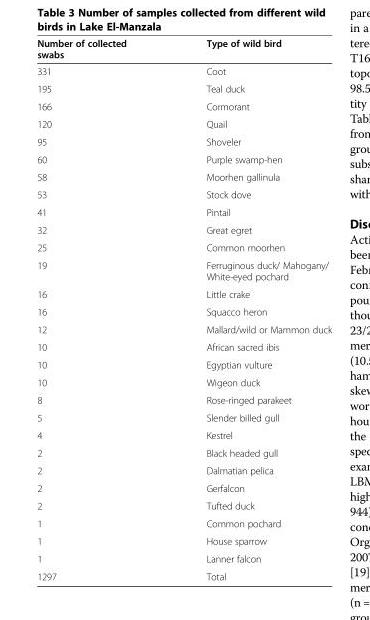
<table><thead><tr><td>Number of collected swabs</td><td>Type of wild bird</td></tr></thead><tbody><tr><td>331</td><td>Coot</td></tr><tr><td>195</td><td>Teal duck</td></tr><tr><td>166</td><td>Cormorant</td></tr><tr><td>120</td><td>Quail</td></tr><tr><td>95</td><td>Shoveler</td></tr><tr><td>60</td><td>Purple swamp-hen</td></tr><tr><td>58</td><td>Moorhen gallinula</td></tr><tr><td>53</td><td>Stock dove</td></tr><tr><td>41</td><td>Pintail</td></tr><tr><td>32</td><td>Great egret</td></tr><tr><td>25</td><td>Common moorhen</td></tr><tr><td>19</td><td>Ferruginous duck/ Mahogany/ White-eyed pochard</td></tr><tr><td>16</td><td>Little crake</td></tr><tr><td>16</td><td>Squacco heron</td></tr><tr><td>12</td><td>Mallard/wild or Mammon duck</td></tr><tr><td>10</td><td>African sacred ibis</td></tr><tr><td>10</td><td>Egyptian vulture</td></tr><tr><td>10</td><td>Wigeon duck</td></tr><tr><td>8</td><td>Rose-ringed parakeet</td></tr><tr><td>5</td><td>Slender billed gull</td></tr><tr><td>4</td><td>Kestrel</td></tr><tr><td>2</td><td>Black headed gull</td></tr><tr><td>2</td><td>Dalmatian pelica</td></tr><tr><td>2</td><td>Gerfalcon</td></tr><tr><td>2</td><td>Tufted duck</td></tr><tr><td>1</td><td>Common pochard</td></tr><tr><td>1</td><td>House sparrow</td></tr><tr><td>1</td><td>Lanner falcon</td></tr><tr><td>1297</td><td>Total</td></tr></tbody></table>